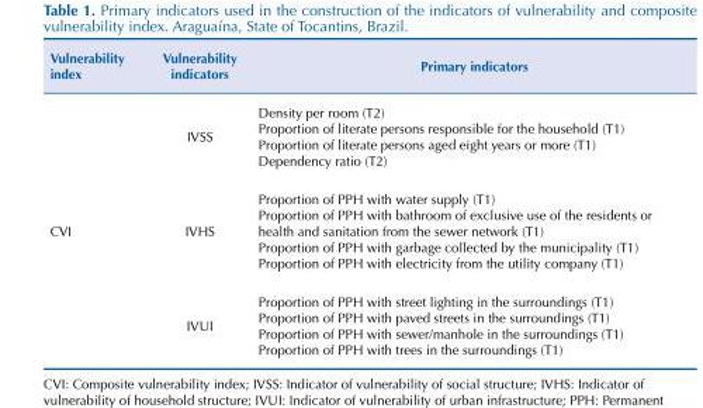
<table><thead><tr><td>Vulnerability index</td><td>Vulnerability indicators</td><td>Primary indicators</td></tr></thead><tbody><tr><td rowspan="3">CVI</td><td>IVSS</td><td>Density per room (T2) Proportion of literate persons responsible for the household (T1) Proportion of literate persons aged eight years or more (T1) Dependency ratio (T2)</td></tr><tr><td>IVHS</td><td>Proportion of PPH with water supply (T1) Proportion of PPH with bathroom of exclusive use of the residents or health and sanitation from the sewer network (T1) Proportion of PPH with garbage collected by the municipality (T1) Proportion of PPH with electricity from the utility company (T1)</td></tr><tr><td>IVUI</td><td>Proportion of PPH with street lighting in the surroundings (T1) Proportion of PPH with paved streets in the surroundings (T1) Proportion of PPH with sewer/manhole in the surroundings (T1) Proportion of PPH with trees in the surroundings (T1)</td></tr></tbody></table>